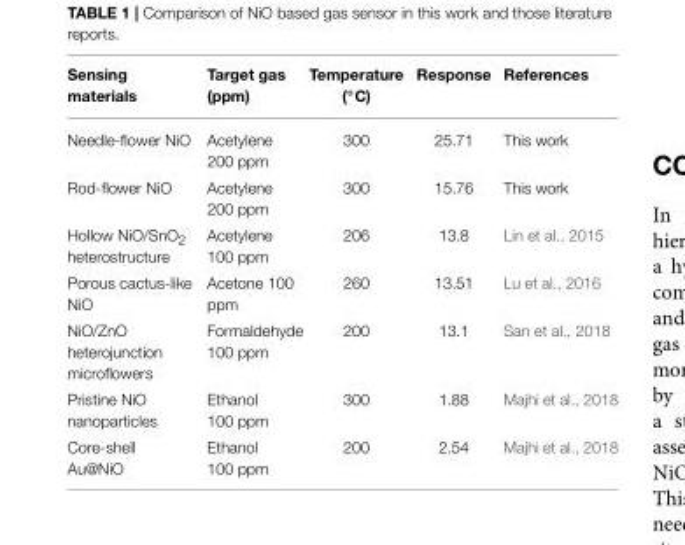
<table><thead><tr><td>Sensing materials</td><td>Target gas (ppm)</td><td>Temperature (◦C)</td><td>Response</td><td>References</td></tr></thead><tbody><tr><td>Needle-flower NiO</td><td>Acetylene 200 ppm</td><td>300</td><td>25.71</td><td>This work</td></tr><tr><td>Rod-flower NiO</td><td>Acetylene 200 ppm</td><td>300</td><td>15.76</td><td>This work</td></tr><tr><td>Hollow NiO/SnO<sub>2</sub> heterostructure</td><td>Acetylene 100 ppm</td><td>206</td><td>13.8</td><td>Lin et al., 2015</td></tr><tr><td>Porous cactus-like NiO</td><td>Acetone 100 ppm</td><td>260</td><td>13.51</td><td>Lu et al., 2016</td></tr><tr><td>NiO/ZnO heterojunction microflowers</td><td>Formaldehyde 100 ppm</td><td>200</td><td>13.1</td><td>San et al., 2018</td></tr><tr><td>Pristine NiO nanoparticles</td><td>Ethanol 100 ppm</td><td>300</td><td>1.88</td><td>Majhi et al., 2018</td></tr><tr><td>Core-shell Au@NiO</td><td>Ethanol 100 ppm</td><td>200</td><td>2.54</td><td>Majhi et al., 2018</td></tr></tbody></table>